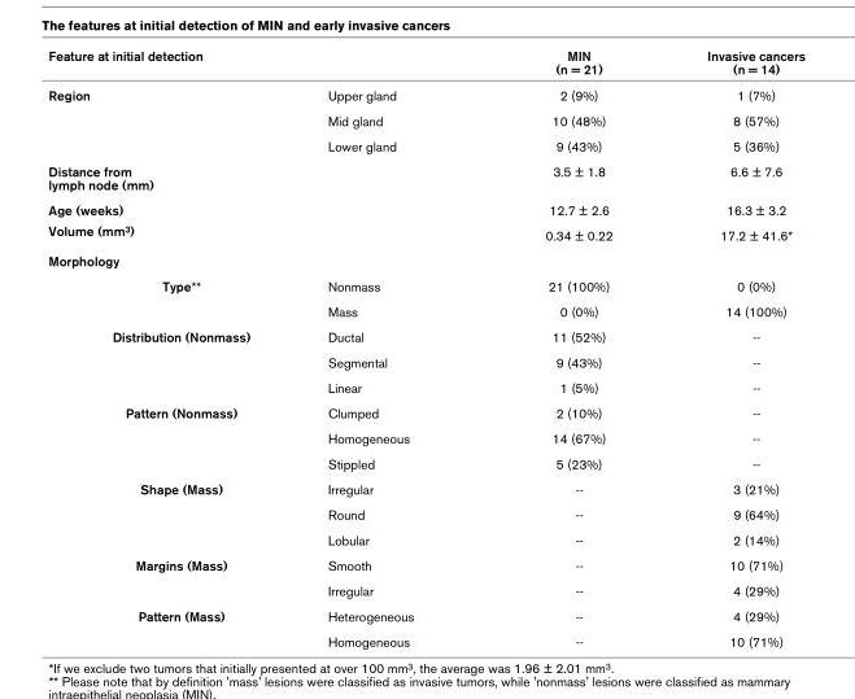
<table><thead><tr><td colspan="2">Feature at initial detection</td><td rowspan="2">MIN (n = 21) 2 (9%)</td><td rowspan="2">Invasive cancers (n = 14) 1 (7%)</td></tr><tr><td>Region</td><td>Upper gland</td></tr></thead><tbody><tr><td></td><td>Mid gland</td><td>10 (48%)</td><td>8 (57%)</td></tr><tr><td></td><td>Lower gland</td><td>9 (43%)</td><td>5 (36%)</td></tr><tr><td>Distance from lymph node (mm)</td><td></td><td>3.5 ± 1.8</td><td>6.6 ± 7.6</td></tr><tr><td>Age (weeks)</td><td></td><td>12.7 ± 2.6</td><td>16.3 ± 3.2</td></tr><tr><td>Volume (mm<sup>3</sup>)</td><td></td><td>0.34 ± 0.22</td><td>17.2 ± 41.6*</td></tr><tr><td colspan="4">Morphology</td></tr><tr><td rowspan="2">Type**</td><td>Nonmass</td><td>21 (100%)</td><td>0 (0%)</td></tr><tr><td>Mass</td><td>0 (0%)</td><td>14 (100%)</td></tr><tr><td rowspan="3">Distribution (Nonmass)</td><td>Ductal</td><td>11 (52%)</td><td>--</td></tr><tr><td>Segmental</td><td>9 (43%)</td><td>--</td></tr><tr><td>Linear</td><td>1 (5%)</td><td>--</td></tr><tr><td rowspan="3">Pattern (Nonmass)</td><td>Clumped</td><td>2 (10%)</td><td>--</td></tr><tr><td>Homogeneous</td><td>14 (67%)</td><td>--</td></tr><tr><td>Stippled</td><td>5 (23%)</td><td>--</td></tr><tr><td rowspan="3">Shape (Mass)</td><td>Irregular</td><td>--</td><td>3 (21%)</td></tr><tr><td>Round</td><td>--</td><td>9 (64%)</td></tr><tr><td>Lobular</td><td>--</td><td>2 (14%)</td></tr><tr><td rowspan="2">Margins (Mass)</td><td>Smooth</td><td>--</td><td>10 (71%)</td></tr><tr><td>Irregular</td><td>--</td><td>4 (29%)</td></tr><tr><td rowspan="2">Pattern (Mass)</td><td>Heterogeneous</td><td>--</td><td>4 (29%)</td></tr><tr><td>Homogeneous</td><td>--</td><td>10 (71%)</td></tr></tbody></table>